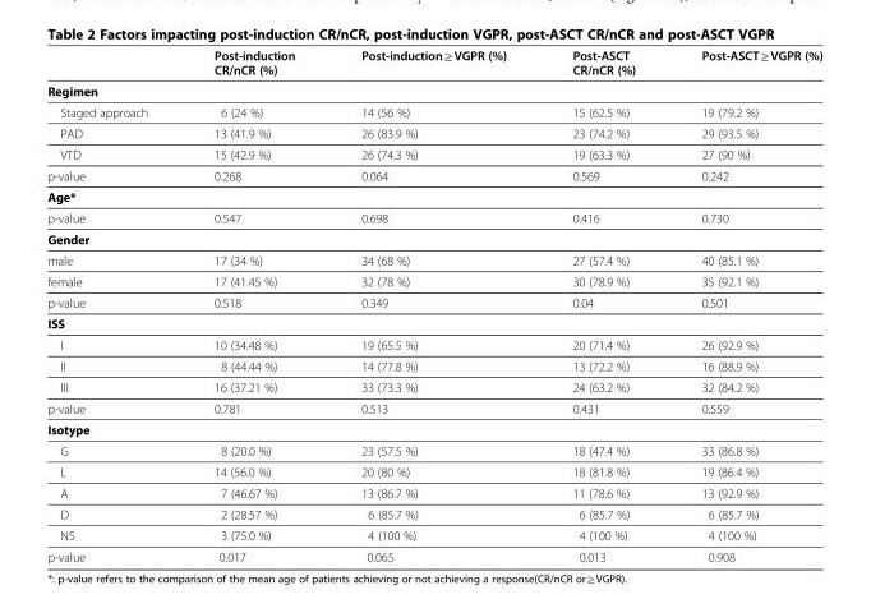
<table><thead><tr><td></td><td>Post-induction CR/nCR (%)</td><td>Post-induction ≥ VGPR (%)</td><td>Post-ASCT CR/nCR (%)</td><td>Post-ASCT ≥ VGPR (%)</td></tr></thead><tbody><tr><td colspan="5">Regimen</td></tr><tr><td>Staged approach</td><td>6 (24 %)</td><td>14 (56 %)</td><td>15 (62.5 %)</td><td>19 (79.2 %)</td></tr><tr><td>PAD</td><td>13 (41.9 %)</td><td>26 (83.9 %)</td><td>23 (74.2 %)</td><td>29 (93.5 %)</td></tr><tr><td>VTD</td><td>15 (42.9 %)</td><td>26 (74.3 %)</td><td>19 (63.3 %)</td><td>27 (90 %)</td></tr><tr><td>p-value</td><td>0.268</td><td>0.064</td><td>0.569</td><td>0.242</td></tr><tr><td colspan="5">Age*</td></tr><tr><td>p-value</td><td>0.547</td><td>0.698</td><td>0.416</td><td>0.730</td></tr><tr><td colspan="5">Gender</td></tr><tr><td>male</td><td>17 (34 %)</td><td>34 (68 %)</td><td>27 (57.4 %)</td><td>40 (85.1 %)</td></tr><tr><td>female</td><td>17 (41.45 %)</td><td>32 (78 %)</td><td>30 (78.9 %)</td><td>35 (92.1 %)</td></tr><tr><td>p-value</td><td>0.518</td><td>0.349</td><td>0.04</td><td>0.501</td></tr><tr><td colspan="5">ISS</td></tr><tr><td>I</td><td>10 (34.48 %)</td><td>19 (65.5 %)</td><td>20 (71.4 %)</td><td>26 (92.9 %)</td></tr><tr><td>II</td><td>8 (44.44 %)</td><td>14 (77.8 %)</td><td>13 (72.2 %)</td><td>16 (88.9 %)</td></tr><tr><td>III</td><td>16 (37.21 %)</td><td>33 (73.3 %)</td><td>24 (63.2 %)</td><td>32 (84.2 %)</td></tr><tr><td>p-value</td><td>0.781</td><td>0.513</td><td>0.431</td><td>0.559</td></tr><tr><td colspan="5">Isotype</td></tr><tr><td>G</td><td>8 (20.0 %)</td><td>23 (57.5 %)</td><td>18 (47.4 %)</td><td>33 (86.8 %)</td></tr><tr><td>L</td><td>14 (56.0 %)</td><td>20 (80 %)</td><td>18 (81.8 %)</td><td>19 (86.4 %)</td></tr><tr><td>A</td><td>7 (46.67 %)</td><td>13 (86.7 %)</td><td>11 (78.6 %)</td><td>13 (92.9 %)</td></tr><tr><td>D</td><td>2 (28.57 %)</td><td>6 (85.7 %)</td><td>6 (85.7 %)</td><td>6 (85.7 %)</td></tr><tr><td>NS</td><td>3 (75.0 %)</td><td>4 (100 %)</td><td>4 (100 %)</td><td>4 (100 %)</td></tr><tr><td>p-value</td><td>0.017</td><td>0.065</td><td>0.013</td><td>0.908</td></tr></tbody></table>